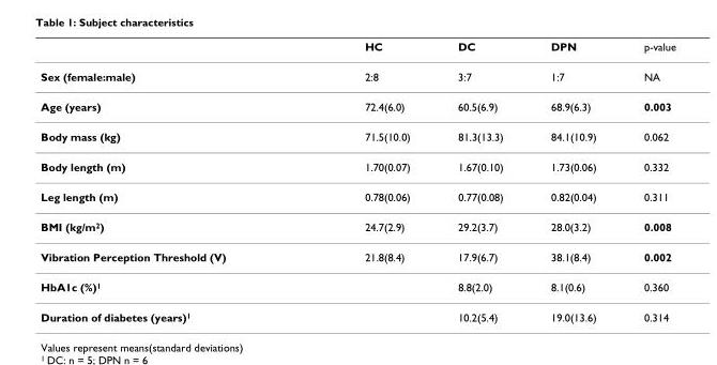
<table><thead><tr><td></td><td>HC</td><td>DC</td><td>DPN</td><td>p-value</td></tr></thead><tbody><tr><td>Sex (female:male)</td><td>2:8</td><td>3:7</td><td>1:7</td><td>NA</td></tr><tr><td>Age (years)</td><td>72.4(6.0)</td><td>60.5(6.9)</td><td>68.9(6.3)</td><td>0.003</td></tr><tr><td>Body mass (kg)</td><td>71.5(10.0)</td><td>81.3(13.3)</td><td>84.1(10.9)</td><td>0.062</td></tr><tr><td>Body length (m)</td><td>1.70(0.07)</td><td>1.67(0.10)</td><td>1.73(0.06)</td><td>0.332</td></tr><tr><td>Leg length (m)</td><td>0.78(0.06)</td><td>0.77(0.08)</td><td>0.82(0.04)</td><td>0.311</td></tr><tr><td>BMI (kg/m<sup>2</sup>)</td><td>24.7(2.9)</td><td>29.2(3.7)</td><td>28.0(3.2)</td><td>0.008</td></tr><tr><td>Vibration Perception Threshold (V)</td><td>21.8(8.4)</td><td>17.9(6.7)</td><td>38.1(8.4)</td><td>0.002</td></tr><tr><td>HbA1c (%)<sup>1</sup></td><td></td><td>8.8(2.0)</td><td>8.1(0.6)</td><td>0.360</td></tr><tr><td>Duration of diabetes (years)<sup>1</sup></td><td></td><td>10.2(5.4)</td><td>19.0(13.6)</td><td>0.314</td></tr></tbody></table>